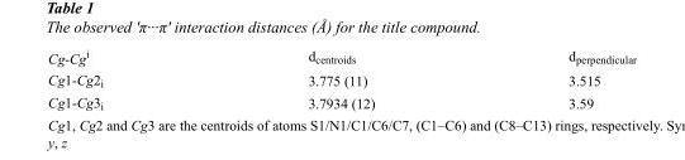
<table><tbody><tr><td>Cg-Cg<sup>i</sup></td><td>d<sub>centroids</sub></td><td>d<sub>perpendicular</sub></td></tr><tr><td>Cg1-Cg2<sup>i</sup></td><td>3.775 (11)</td><td>3.515</td></tr><tr><td>Cg1-Cg3<sup>i</sup></td><td>3.7934 (12)</td><td>3.59</td></tr></tbody></table>